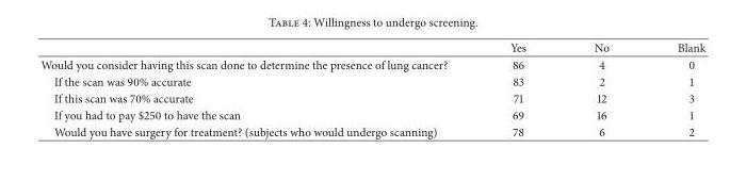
<table><thead><tr><td></td><td>Yes</td><td>No</td><td>Blank</td></tr></thead><tbody><tr><td>Would you consider having this scan done to determine the presence of lung cancer?</td><td>86</td><td>4</td><td>0</td></tr><tr><td>If the scan was 90% accurate</td><td>83</td><td>2</td><td>1</td></tr><tr><td>If this scan was 70% accurate</td><td>71</td><td>12</td><td>3</td></tr><tr><td>If you had to pay $250 to have the scan</td><td>69</td><td>16</td><td>1</td></tr><tr><td>Would you have surgery for treatment? (subjects who would undergo scanning)</td><td>78</td><td>6</td><td>2</td></tr></tbody></table>